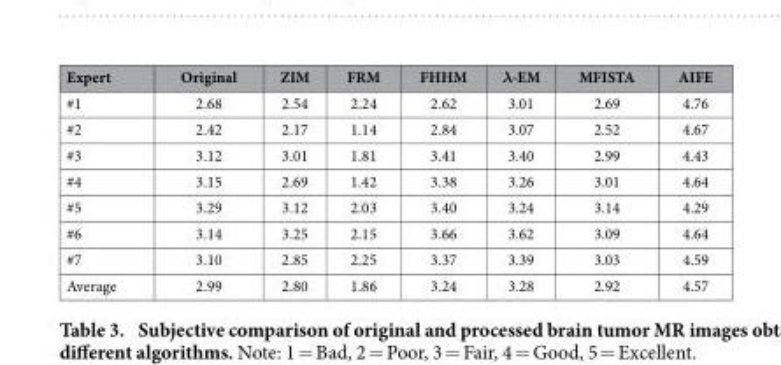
<table><thead><tr><td>Expert</td><td>Original</td><td>ZIM</td><td>FRM</td><td>FHHM</td><td>λ-EM</td><td>MFISTA</td><td>AIFE</td></tr></thead><tbody><tr><td>#1</td><td>2.68</td><td>2.54</td><td>2.24</td><td>2.62</td><td>3.01</td><td>2.69</td><td>4.76</td></tr><tr><td>#2</td><td>2.42</td><td>2.17</td><td>1.14</td><td>2.84</td><td>3.07</td><td>2.52</td><td>4.67</td></tr><tr><td>#3</td><td>3.12</td><td>3.01</td><td>1.81</td><td>3.41</td><td>3.40</td><td>2.99</td><td>4.43</td></tr><tr><td>#4</td><td>3.15</td><td>2.69</td><td>1.42</td><td>3.38</td><td>3.26</td><td>3.01</td><td>4.64</td></tr><tr><td>#5</td><td>3.29</td><td>3.12</td><td>2.03</td><td>3.40</td><td>3.24</td><td>3.14</td><td>4.29</td></tr><tr><td>#6</td><td>3.14</td><td>3.25</td><td>2.15</td><td>3.66</td><td>3.62</td><td>3.09</td><td>4.64</td></tr><tr><td>#7</td><td>3.10</td><td>2.85</td><td>2.25</td><td>3.37</td><td>3.39</td><td>3.03</td><td>4.59</td></tr><tr><td>Average</td><td>2.99</td><td>2.80</td><td>1.86</td><td>3.24</td><td>3.28</td><td>2.92</td><td>4.57</td></tr></tbody></table>